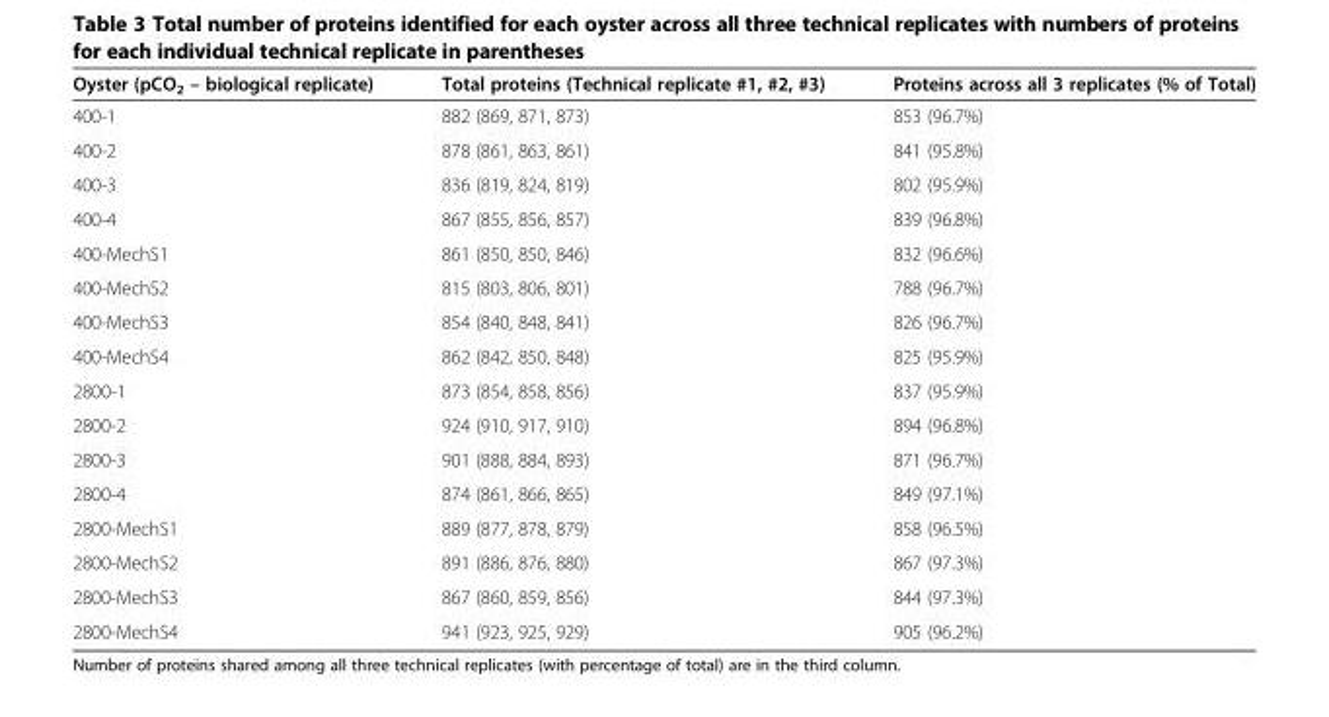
<table><thead><tr><td>Oyster (pCO<sub>2</sub> – biological replicate)</td><td>Total proteins (Technical replicate #1, #2, #3)</td><td>Proteins across all 3 replicates (% of Total)</td></tr></thead><tbody><tr><td>400-1</td><td>882 (869, 871, 873)</td><td>853 (96.7%)</td></tr><tr><td>400-2</td><td>878 (861, 863, 861)</td><td>841 (95.8%)</td></tr><tr><td>400-3</td><td>836 (819, 824, 819)</td><td>802 (95.9%)</td></tr><tr><td>400-4</td><td>867 (855, 856, 857)</td><td>839 (96.8%)</td></tr><tr><td>400-MechS1</td><td>861 (850, 850, 846)</td><td>832 (96.6%)</td></tr><tr><td>400-MechS2</td><td>815 (803, 806, 801)</td><td>788 (96.7%)</td></tr><tr><td>400-MechS3</td><td>854 (840, 848, 841)</td><td>826 (96.7%)</td></tr><tr><td>400-MechS4</td><td>862 (842, 850, 848)</td><td>825 (95.9%)</td></tr><tr><td>2800-1</td><td>873 (854, 858, 856)</td><td>837 (95.9%)</td></tr><tr><td>2800-2</td><td>924 (910, 917, 910)</td><td>894 (96.8%)</td></tr><tr><td>2800-3</td><td>901 (888, 884, 893)</td><td>871 (96.7%)</td></tr><tr><td>2800-4</td><td>874 (861, 866, 865)</td><td>849 (97.1%)</td></tr><tr><td>2800-MechS1</td><td>889 (877, 878, 879)</td><td>858 (96.5%)</td></tr><tr><td>2800-MechS2</td><td>891 (886, 876, 880)</td><td>867 (97.3%)</td></tr><tr><td>2800-MechS3</td><td>867 (860, 859, 856)</td><td>844 (97.3%)</td></tr><tr><td>2800-MechS4</td><td>941 (923, 925, 929)</td><td>905 (96.2%)</td></tr></tbody></table>